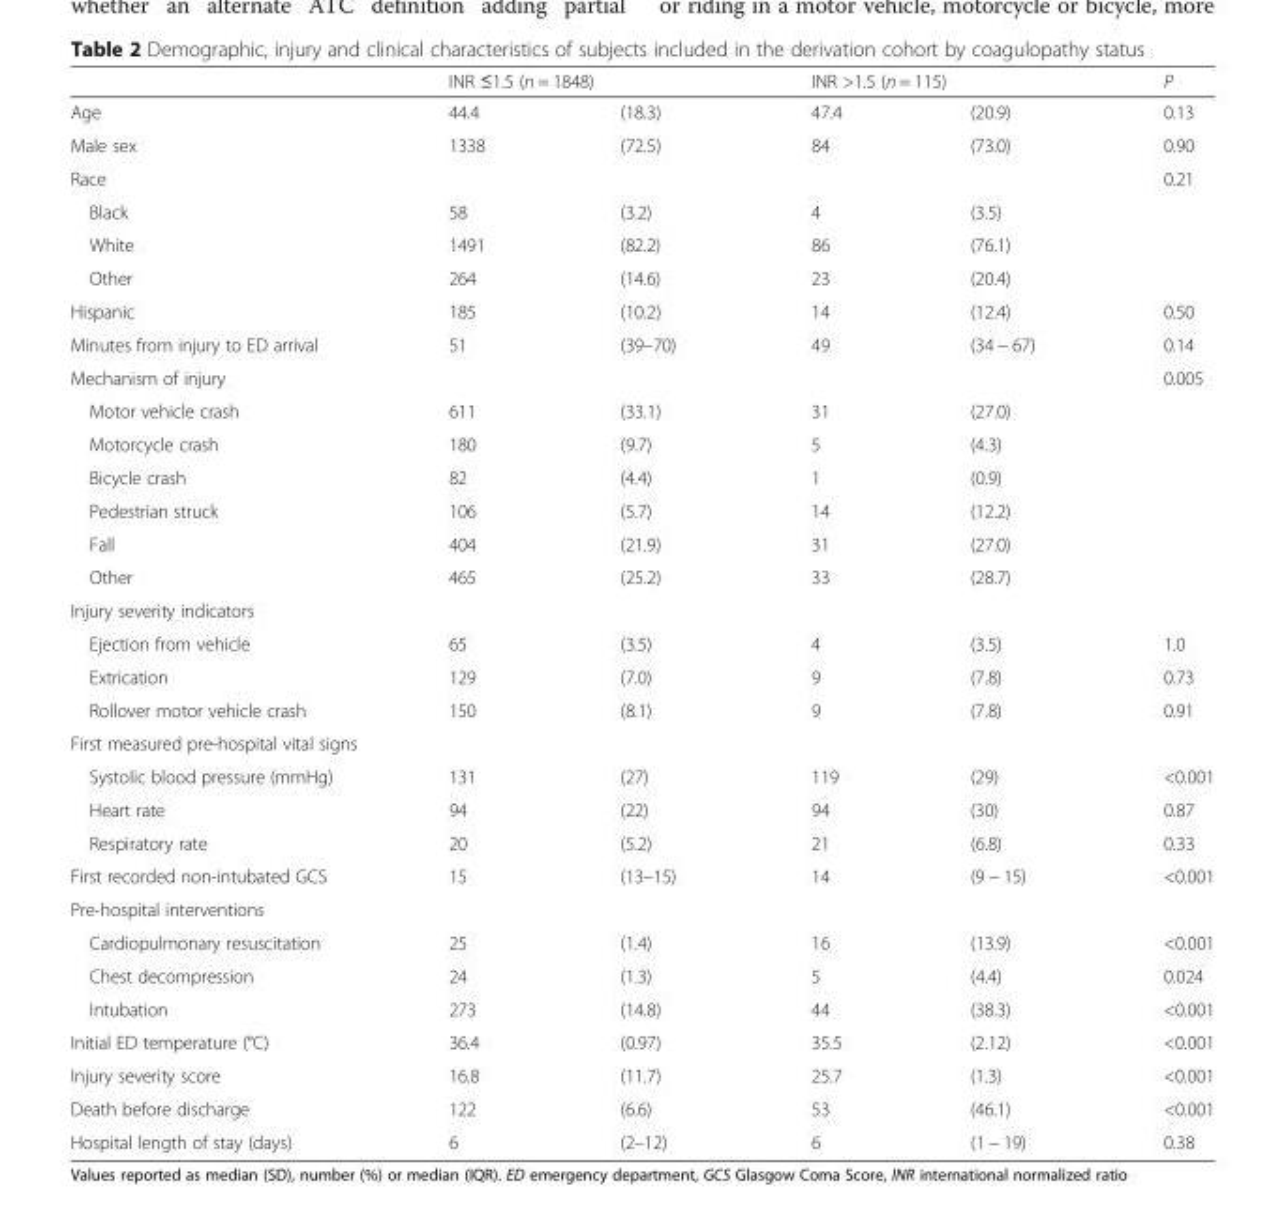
<table><thead><tr><td rowspan="2">Age</td><td colspan="2">INR ≤1.5 (n = 1848)</td><td colspan="2">INR &gt;1.5 (n = 115)</td><td rowspan="2">P 0.13</td></tr><tr><td>44.4</td><td>(18.3)</td><td>47.4</td><td>(20.9)</td></tr></thead><tbody><tr><td>Male sex</td><td>1338</td><td>(72.5)</td><td>84</td><td>(73.0)</td><td>0.90</td></tr><tr><td>Race</td><td></td><td></td><td></td><td></td><td>0.21</td></tr><tr><td>Black</td><td>58</td><td>(3.2)</td><td>4</td><td>(3.5)</td><td rowspan="3"></td></tr><tr><td>White</td><td>1491</td><td>(82.2)</td><td>86</td><td>(76.1)</td></tr><tr><td>Other</td><td>264</td><td>(14.6)</td><td>23</td><td>(20.4)</td></tr><tr><td>Hispanic</td><td>185</td><td>(10.2)</td><td>14</td><td>(12.4)</td><td>0.50</td></tr><tr><td>Minutes from injury to ED arrival</td><td>51</td><td>(39–70)</td><td>49</td><td>(34 − 67)</td><td>0.14</td></tr><tr><td>Mechanism of injury</td><td></td><td></td><td></td><td></td><td>0.005</td></tr><tr><td>Motor vehicle crash</td><td>611</td><td>(33.1)</td><td>31</td><td>(27.0)</td><td rowspan="6"></td></tr><tr><td>Motorcycle crash</td><td>180</td><td>(9.7)</td><td>5</td><td>(4.3)</td></tr><tr><td>Bicycle crash</td><td>82</td><td>(4.4)</td><td>1</td><td>(0.9)</td></tr><tr><td>Pedestrian struck</td><td>106</td><td>(5.7)</td><td>14</td><td>(12.2)</td></tr><tr><td>Fall</td><td>404</td><td>(21.9)</td><td>31</td><td>(27.0)</td></tr><tr><td>Other</td><td>465</td><td>(25.2)</td><td>33</td><td>(28.7)</td></tr><tr><td colspan="6">Injury severity indicators</td></tr><tr><td>Ejection from vehicle</td><td>65</td><td>(3.5)</td><td>4</td><td>(3.5)</td><td>1.0</td></tr><tr><td>Extrication</td><td>129</td><td>(7.0)</td><td>9</td><td>(7.8)</td><td>0.73</td></tr><tr><td>Rollover motor vehicle crash</td><td>150</td><td>(8.1)</td><td>9</td><td>(7.8)</td><td>0.91</td></tr><tr><td colspan="6">First measured pre-hospital vital signs</td></tr><tr><td>Systolic blood pressure (mmHg)</td><td>131</td><td>(27)</td><td>119</td><td>(29)</td><td>&lt;0.001</td></tr><tr><td>Heart rate</td><td>94</td><td>(22)</td><td>94</td><td>(30)</td><td>0.87</td></tr><tr><td>Respiratory rate</td><td>20</td><td>(5.2)</td><td>21</td><td>(6.8)</td><td>0.33</td></tr><tr><td>First recorded non-intubated GCS</td><td>15</td><td>(13–15)</td><td>14</td><td>(9 − 15)</td><td>&lt;0.001</td></tr><tr><td colspan="6">Pre-hospital interventions</td></tr><tr><td>Cardiopulmonary resuscitation</td><td>25</td><td>(1.4)</td><td>16</td><td>(13.9)</td><td>&lt;0.001</td></tr><tr><td>Chest decompression</td><td>24</td><td>(1.3)</td><td>5</td><td>(4.4)</td><td>0.024</td></tr><tr><td>Intubation</td><td>273</td><td>(14.8)</td><td>44</td><td>(38.3)</td><td>&lt;0.001</td></tr><tr><td>Initial ED temperature (°C)</td><td>36.4</td><td>(0.97)</td><td>35.5</td><td>(2.12)</td><td>&lt;0.001</td></tr><tr><td>Injury severity score</td><td>16.8</td><td>(11.7)</td><td>25.7</td><td>(1.3)</td><td>&lt;0.001</td></tr><tr><td>Death before discharge</td><td>122</td><td>(6.6)</td><td>53</td><td>(46.1)</td><td>&lt;0.001</td></tr><tr><td>Hospital length of stay (days)</td><td>6</td><td>(2–12)</td><td>6</td><td>(1 − 19)</td><td>0.38</td></tr></tbody></table>